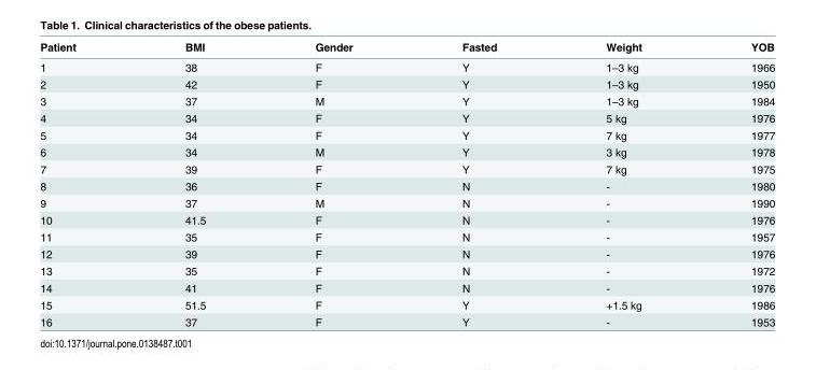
<table><thead><tr><td>Patient</td><td>BMI</td><td>Gender</td><td>Fasted</td><td>Weight</td><td>YOB</td></tr></thead><tbody><tr><td>1</td><td>38</td><td>F</td><td>Y</td><td>1–3 kg</td><td>1966</td></tr><tr><td>2</td><td>42</td><td>F</td><td>Y</td><td>1–3 kg</td><td>1950</td></tr><tr><td>3</td><td>37</td><td>M</td><td>Y</td><td>1–3 kg</td><td>1984</td></tr><tr><td>4</td><td>34</td><td>F</td><td>Y</td><td>5 kg</td><td>1976</td></tr><tr><td>5</td><td>34</td><td>F</td><td>Y</td><td>7 kg</td><td>1977</td></tr><tr><td>6</td><td>34</td><td>M</td><td>Y</td><td>3 kg</td><td>1978</td></tr><tr><td>7</td><td>39</td><td>F</td><td>Y</td><td>7 kg</td><td>1975</td></tr><tr><td>8</td><td>36</td><td>F</td><td>N</td><td>-</td><td>1980</td></tr><tr><td>9</td><td>37</td><td>M</td><td>N</td><td>-</td><td>1990</td></tr><tr><td>10</td><td>41.5</td><td>F</td><td>N</td><td>-</td><td>1976</td></tr><tr><td>11</td><td>35</td><td>F</td><td>N</td><td>-</td><td>1957</td></tr><tr><td>12</td><td>39</td><td>F</td><td>N</td><td>-</td><td>1976</td></tr><tr><td>13</td><td>35</td><td>F</td><td>N</td><td>-</td><td>1972</td></tr><tr><td>14</td><td>41</td><td>F</td><td>N</td><td>-</td><td>1976</td></tr><tr><td>15</td><td>51.5</td><td>F</td><td>Y</td><td>+1.5 kg</td><td>1986</td></tr><tr><td>16</td><td>37</td><td>F</td><td>Y</td><td>-</td><td>1953</td></tr></tbody></table>